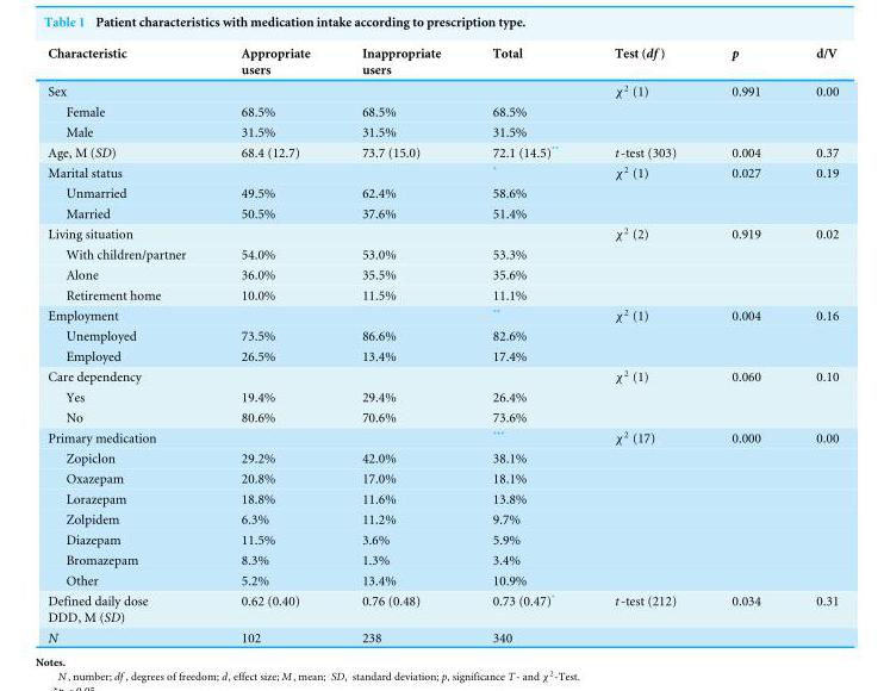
<table><thead><tr><td>Characteristic</td><td>Appropriate users</td><td>Inappropriate users</td><td>Total</td><td>Test (df )</td><td>p</td><td>d/V</td></tr></thead><tbody><tr><td>;Sex</td><td></td><td></td><td></td><td>χ <sup>2</sup> (1)</td><td>0.991</td><td>0.00</td></tr><tr><td>; Female</td><td>68.5%</td><td>68.5%</td><td>68.5%</td><td></td><td></td><td></td></tr><tr><td>; Male</td><td>31.5%</td><td>31.5%</td><td>31.5%</td><td></td><td></td><td></td></tr><tr><td>;Age, M (SD)</td><td>68.4 (12.7)</td><td>73.7 (15.0)</td><td>72.1 (14.5)**</td><td>t-test (303)</td><td>0.004</td><td>0.37</td></tr><tr><td>;Marital status</td><td></td><td></td><td>*</td><td>χ <sup>2</sup> (1)</td><td>0.027</td><td>0.19</td></tr><tr><td>; Unmarried</td><td>49.5%</td><td>62.4%</td><td>58.6%</td><td></td><td></td><td></td></tr><tr><td>; Married</td><td>50.5%</td><td>37.6%</td><td>51.4%</td><td></td><td></td><td></td></tr><tr><td>;Living situation</td><td></td><td></td><td></td><td>χ <sup>2</sup> (2)</td><td>0.919</td><td>0.02</td></tr><tr><td>; With children/partner</td><td>54.0%</td><td>53.0%</td><td>53.3%</td><td></td><td></td><td></td></tr><tr><td>; Alone</td><td>36.0%</td><td>35.5%</td><td>35.6%</td><td></td><td></td><td></td></tr><tr><td>; Retirement home</td><td>10.0%</td><td>11.5%</td><td>11.1%</td><td></td><td></td><td></td></tr><tr><td>;Employment</td><td></td><td></td><td>**</td><td>χ <sup>2</sup> (1)</td><td>0.004</td><td>0.16</td></tr><tr><td>; Unemployed</td><td>73.5%</td><td>86.6%</td><td>82.6%</td><td></td><td></td><td></td></tr><tr><td>; Employed</td><td>26.5%</td><td>13.4%</td><td>17.4%</td><td></td><td></td><td></td></tr><tr><td>;Care dependency</td><td></td><td></td><td></td><td>χ <sup>2</sup> (1)</td><td>0.060</td><td>0.10</td></tr><tr><td>; Yes</td><td>19.4%</td><td>29.4%</td><td>26.4%</td><td></td><td></td><td></td></tr><tr><td>; No</td><td>80.6%</td><td>70.6%</td><td>73.6%</td><td></td><td></td><td></td></tr><tr><td>;Primary medication</td><td></td><td></td><td>***</td><td>χ <sup>2</sup> (17)</td><td>0.000</td><td>0.00</td></tr><tr><td>; Zopiclon</td><td>29.2%</td><td>42.0%</td><td>38.1%</td><td></td><td></td><td></td></tr><tr><td>; Oxazepam</td><td>20.8%</td><td>17.0%</td><td>18.1%</td><td></td><td></td><td></td></tr><tr><td>; Lorazepam</td><td>18.8%</td><td>11.6%</td><td>13.8%</td><td></td><td></td><td></td></tr><tr><td>; Zolpidem</td><td>6.3%</td><td>11.2%</td><td>9.7%</td><td></td><td></td><td></td></tr><tr><td>; Diazepam</td><td>11.5%</td><td>3.6%</td><td>5.9%</td><td></td><td></td><td></td></tr><tr><td>; Bromazepam</td><td>8.3%</td><td>1.3%</td><td>3.4%</td><td></td><td></td><td></td></tr><tr><td>; Other</td><td>5.2%</td><td>13.4%</td><td>10.9%</td><td></td><td></td><td></td></tr><tr><td>;Defined daily dose DDD, M (SD)</td><td>0.62 (0.40)</td><td>0.76 (0.48)</td><td>0.73 (0.47)*</td><td>t-test (212)</td><td>0.034</td><td>0.31</td></tr><tr><td>;N</td><td>102</td><td>238</td><td>340</td><td></td><td></td><td></td></tr></tbody></table>